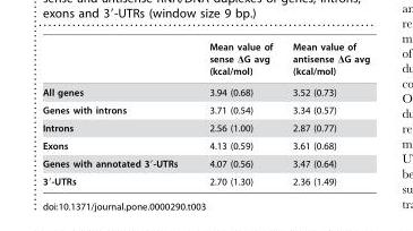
<table><thead><tr><td></td><td>Mean value of sense ΔG avg (kcal/mol)</td><td>Mean value of antisense ΔG avg (kcal/mol)</td></tr></thead><tbody><tr><td>All genes</td><td>3.94 (0.68)</td><td>3.52 (0.73)</td></tr><tr><td>Genes with introns</td><td>3.71 (0.54)</td><td>3.34 (0.57)</td></tr><tr><td>Introns</td><td>2.56 (1.00)</td><td>2.87 (0.77)</td></tr><tr><td>Exons</td><td>4.13 (0.59)</td><td>3.61 (0.68)</td></tr><tr><td>Genes with annotated 3′-UTRs</td><td>4.07 (0.56)</td><td>3.47 (0.64)</td></tr><tr><td>3′-UTRs</td><td>2.70 (1.30)</td><td>2.36 (1.49)</td></tr></tbody></table>